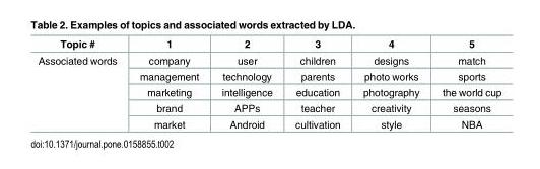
<table><thead><tr><td>Topic #</td><td>1</td><td>2</td><td>3</td><td>4</td><td>5</td></tr></thead><tbody><tr><td rowspan="5">Associated words</td><td>company</td><td>user</td><td>children</td><td>designs</td><td>match</td></tr><tr><td>management</td><td>technology</td><td>parents</td><td>photo works</td><td>sports</td></tr><tr><td>marketing</td><td>intelligence</td><td>education</td><td>photography</td><td>the world cup</td></tr><tr><td>brand</td><td>APPs</td><td>teacher</td><td>creativity</td><td>seasons</td></tr><tr><td>market</td><td>Android</td><td>cultivation</td><td>style</td><td>NBA</td></tr></tbody></table>